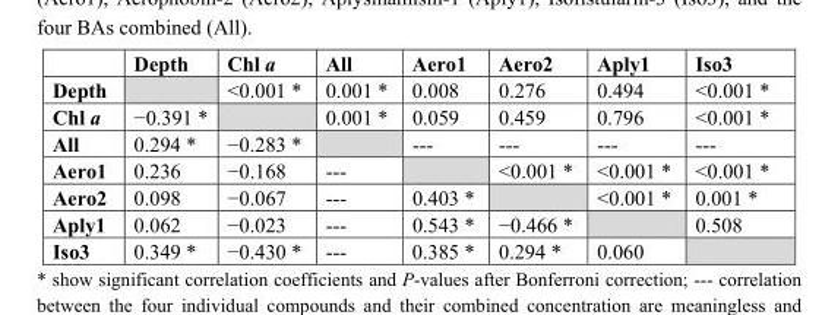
<table><thead><tr><td></td><td>Depth</td><td>Chl a</td><td>All</td><td>Aero1</td><td>Aero2</td><td>Aply1</td><td>Iso3</td></tr></thead><tbody><tr><td>Depth</td><td></td><td>&lt;0.001 *</td><td>0.001 *</td><td>0.008</td><td>0.276</td><td>0.494</td><td>&lt;0.001 *</td></tr><tr><td>Chl a</td><td>−0.391 *</td><td></td><td>0.001 *</td><td>0.059</td><td>0.459</td><td>0.796</td><td>&lt;0.001 *</td></tr><tr><td>All</td><td>0.294 *</td><td>−0.283 *</td><td></td><td>---</td><td>---</td><td>---</td><td>---</td></tr><tr><td>Aero1</td><td>0.236</td><td>−0.168</td><td>---</td><td></td><td>&lt;0.001 *</td><td>&lt;0.001 *</td><td>&lt;0.001 *</td></tr><tr><td>Aero2</td><td>0.098</td><td>−0.067</td><td>---</td><td>0.403 *</td><td></td><td>&lt;0.001 *</td><td>0.001 *</td></tr><tr><td>Aply1</td><td>0.062</td><td>−0.023</td><td>---</td><td>0.543 *</td><td>−0.466 *</td><td></td><td>0.508</td></tr><tr><td>Iso3</td><td>0.349 *</td><td>−0.430 *</td><td>---</td><td>0.385 *</td><td>0.294 *</td><td>0.060</td><td></td></tr></tbody></table>